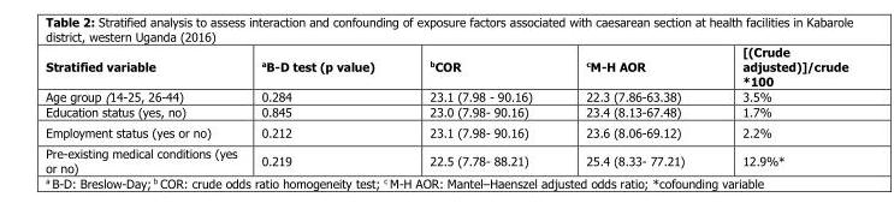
<table><thead><tr><td>Stratified variable</td><td><sup>a</sup>B-D test (p value)</td><td><sup>b</sup>COR</td><td><sup>c</sup>M-H AOR</td><td>[(Crude adjusted)]/crude *100</td></tr></thead><tbody><tr><td>Age group (14-25, 26-44)</td><td>0.284</td><td>23.1 (7.98 - 90.16)</td><td>22.3 (7.86-63.38)</td><td>3.5%</td></tr><tr><td>Education status (yes, no)</td><td>0.845</td><td>23.0 (7.98- 90.16)</td><td>23.4 (8.13-67.48)</td><td>1.7%</td></tr><tr><td>Employment status (yes or no)</td><td>0.212</td><td>23.1 (7.98- 90.16)</td><td>23.6 (8.06-69.12)</td><td>2.2%</td></tr><tr><td>Pre-existing medical conditions (yes or no)</td><td>0.219</td><td>22.5 (7.78- 88.21)</td><td>25.4 (8.33- 77.21)</td><td>12.9%*</td></tr></tbody></table>